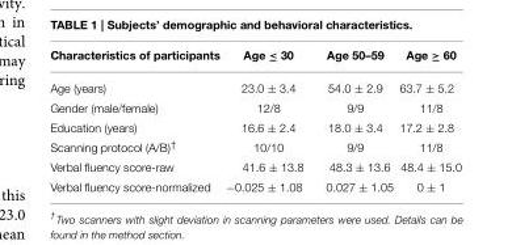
<table><thead><tr><td>Characteristics of participants</td><td>Age ≤ 30</td><td>Age 50–59</td><td>Age ≥ 60</td></tr></thead><tbody><tr><td>Age (years)</td><td>23.0 ± 3.4</td><td>54.0 ± 2.9</td><td>63.7 ± 5.2</td></tr><tr><td>Gender (male/female)</td><td>12/8</td><td>9/9</td><td>11/8</td></tr><tr><td>Education (years)</td><td>16.6 ± 2.4</td><td>18.0 ± 3.4</td><td>17.2 ± 2.8</td></tr><tr><td>Scanning protocol (A/B)<sup>†</sup></td><td>10/10</td><td>9/9</td><td>11/8</td></tr><tr><td>Verbal fluency score-raw</td><td>41.6 ± 13.8</td><td>48.3 ± 13.6</td><td>48.4 ± 15.0</td></tr><tr><td>Verbal fluency score-normalized</td><td>−0.025 ± 1.08</td><td>0.027 ± 1.05</td><td>0 ± 1</td></tr></tbody></table>